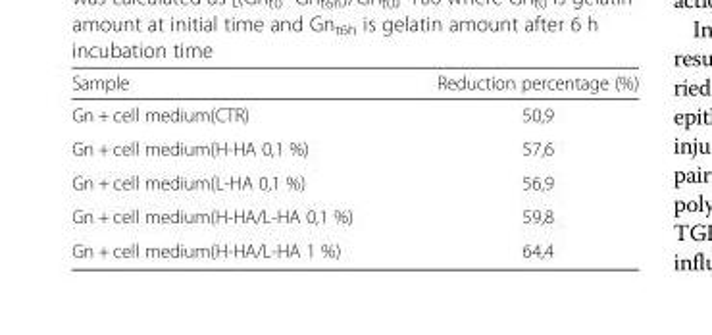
<table><thead><tr><td>Sample</td><td>Reduction percentage (%)</td></tr></thead><tbody><tr><td>Gn + cell medium(CTR)</td><td>50,9</td></tr><tr><td>Gn + cell medium(H-HA 0,1 %)</td><td>57,6</td></tr><tr><td>Gn + cell medium(L-HA 0,1 %)</td><td>56,9</td></tr><tr><td>Gn + cell medium(H-HA/L-HA 0,1 %)</td><td>59,8</td></tr><tr><td>Gn + cell medium(H-HA/L-HA 1 %)</td><td>64,4</td></tr></tbody></table>